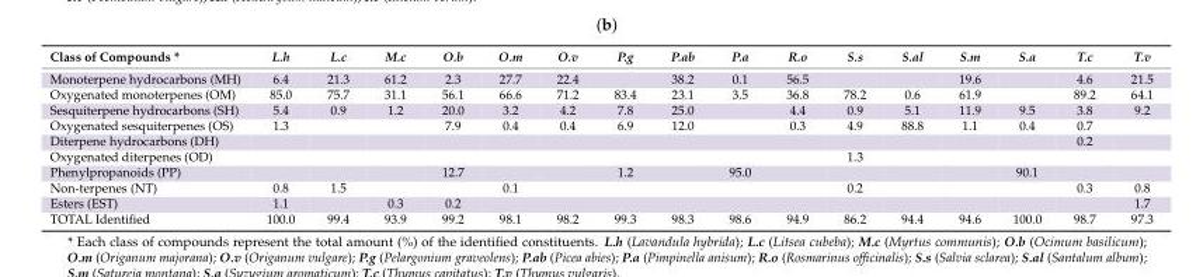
<table><thead><tr><td>Class of Compounds *</td><td>L.h</td><td>L.c</td><td>M.c</td><td>O.b</td><td>O.m</td><td>O.v</td><td>P.g</td><td>P.ab</td><td>P.a</td><td>R.o</td><td>S.s</td><td>S.al</td><td>S.m</td><td>S.a</td><td>T.c</td><td>T.v</td></tr></thead><tbody><tr><td>Monoterpene hydrocarbons (MH)</td><td>6.4</td><td>21.3</td><td>61.2</td><td>2.3</td><td>27.7</td><td>22.4</td><td></td><td>38.2</td><td>0.1</td><td>56.5</td><td></td><td></td><td>19.6</td><td></td><td>4.6</td><td>21.5</td></tr><tr><td>Oxygenated monoterpenes (OM)</td><td>85.0</td><td>75.7</td><td>31.1</td><td>56.1</td><td>66.6</td><td>71.2</td><td>83.4</td><td>23.1</td><td>3.5</td><td>36.8</td><td>78.2</td><td>0.6</td><td>61.9</td><td></td><td>89.2</td><td>64.1</td></tr><tr><td>Sesquiterpene hydrocarbons (SH)</td><td>5.4</td><td>0.9</td><td>1.2</td><td>20.0</td><td>3.2</td><td>4.2</td><td>7.8</td><td>25.0</td><td></td><td>4.4</td><td>0.9</td><td>5.1</td><td>11.9</td><td>9.5</td><td>3.8</td><td>9.2</td></tr><tr><td>Oxygenated sesquiterpenes (OS)</td><td>1.3</td><td></td><td></td><td>7.9</td><td>0.4</td><td>0.4</td><td>6.9</td><td>12.0</td><td></td><td>0.3</td><td>4.9</td><td>88.8</td><td>1.1</td><td>0.4</td><td>0.7</td><td></td></tr><tr><td>Diterpene hydrocarbons (DH)</td><td></td><td></td><td></td><td></td><td></td><td></td><td></td><td></td><td></td><td></td><td></td><td></td><td></td><td></td><td>0.2</td><td></td></tr><tr><td>Oxygenated diterpenes (OD)</td><td></td><td></td><td></td><td></td><td></td><td></td><td></td><td></td><td></td><td></td><td>1.3</td><td></td><td></td><td></td><td></td><td></td></tr><tr><td>Phenylpropanoids (PP)</td><td></td><td></td><td></td><td>12.7</td><td></td><td></td><td>1.2</td><td></td><td>95.0</td><td></td><td></td><td></td><td></td><td>90.1</td><td></td><td></td></tr><tr><td>Non-terpenes (NT)</td><td>0.8</td><td>1.5</td><td></td><td></td><td>0.1</td><td></td><td></td><td></td><td></td><td></td><td>0.2</td><td></td><td></td><td></td><td>0.3</td><td>0.8</td></tr><tr><td>Esters (EST)</td><td>1.1</td><td></td><td>0.3</td><td>0.2</td><td></td><td></td><td></td><td></td><td></td><td></td><td></td><td></td><td></td><td></td><td></td><td>1.7</td></tr><tr><td>TOTAL Identified</td><td>100.0</td><td>99.4</td><td>93.9</td><td>99.2</td><td>98.1</td><td>98.2</td><td>99.3</td><td>98.3</td><td>98.6</td><td>94.9</td><td>86.2</td><td>94.4</td><td>94.6</td><td>100.0</td><td>98.7</td><td>97.3</td></tr></tbody></table>